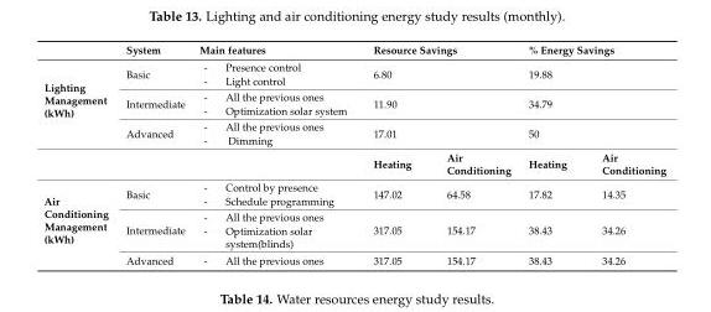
<table><thead><tr><td></td><td>System</td><td>Main features</td><td colspan="2">Resource Savings</td><td colspan="2">% Energy Savings</td></tr></thead><tbody><tr><td rowspan="3">Lighting Management (kWh)</td><td>Basic</td><td>- Presence control - Light control</td><td colspan="2">6.80</td><td colspan="2">19.88</td></tr><tr><td>Intermediate</td><td>- All the previous ones - Optimization solar system</td><td colspan="2">11.90</td><td colspan="2">34.79</td></tr><tr><td>Advanced</td><td>- All the previous ones - Dimming</td><td colspan="2">17.01</td><td colspan="2">50</td></tr><tr><td colspan="3"></td><td>Heating</td><td>Air Conditioning</td><td>Heating</td><td>Air Conditioning</td></tr><tr><td rowspan="3">Air Conditioning Management (kWh)</td><td>Basic</td><td>- Control by presence - Schedule programming</td><td>147.02</td><td>64.58</td><td>17.82</td><td>14.35</td></tr><tr><td>Intermediate</td><td>- All the previous ones - Optimization solar system(blinds)</td><td>317.05</td><td>154.17</td><td>38.43</td><td>34.26</td></tr><tr><td>Advanced</td><td>- All the previous ones</td><td>317.05</td><td>154.17</td><td>38.43</td><td>34.26</td></tr></tbody></table>